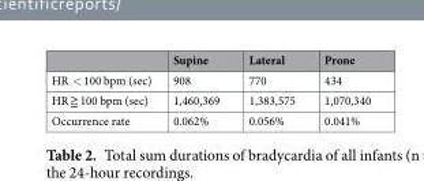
<table><thead><tr><td></td><td>Supine</td><td>Lateral</td><td>Prone</td></tr></thead><tbody><tr><td>HR &lt; 100 bpm (sec)</td><td>908</td><td>770</td><td>434</td></tr><tr><td>HR ≧ 100 bpm (sec)</td><td>1,460,369</td><td>1,383,575</td><td>1,070,340</td></tr><tr><td>Occurrence rate</td><td>0.062%</td><td>0.056%</td><td>0.041%</td></tr></tbody></table>